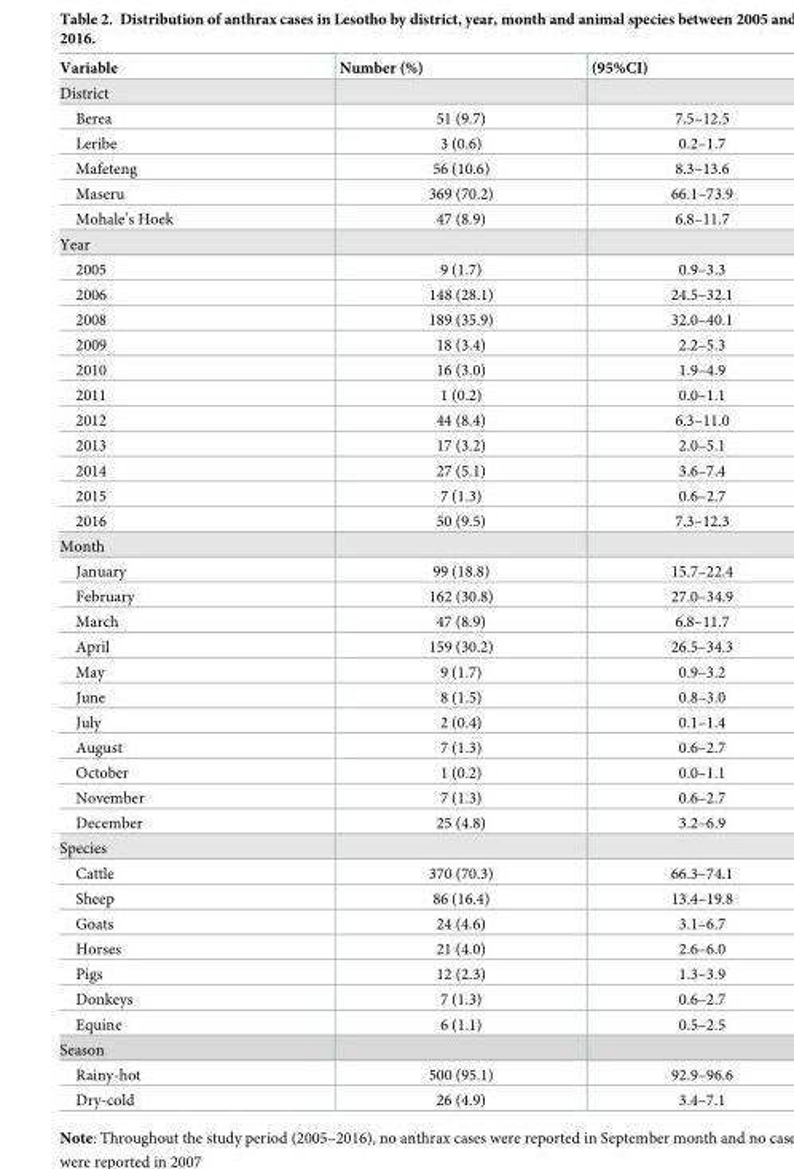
<table><thead><tr><td>Variable</td><td>Number (%)</td><td>(95%CI)</td></tr></thead><tbody><tr><td colspan="3">District</td></tr><tr><td>Berea</td><td>51 (9.7)</td><td>7.5–12.5</td></tr><tr><td>Leribe</td><td>3 (0.6)</td><td>0.2–1.7</td></tr><tr><td>Mafeteng</td><td>56 (10.6)</td><td>8.3–13.6</td></tr><tr><td>Maseru</td><td>369 (70.2)</td><td>66.1–73.9</td></tr><tr><td>Mohale’s Hoek</td><td>47 (8.9)</td><td>6.8–11.7</td></tr><tr><td colspan="3">Year</td></tr><tr><td>2005</td><td>9 (1.7)</td><td>0.9–3.3</td></tr><tr><td>2006</td><td>148 (28.1)</td><td>24.5–32.1</td></tr><tr><td>2008</td><td>189 (35.9)</td><td>32.0–40.1</td></tr><tr><td>2009</td><td>18 (3.4)</td><td>2.2–5.3</td></tr><tr><td>2010</td><td>16 (3.0)</td><td>1.9–4.9</td></tr><tr><td>2011</td><td>1 (0.2)</td><td>0.0–1.1</td></tr><tr><td>2012</td><td>44 (8.4)</td><td>6.3–11.0</td></tr><tr><td>2013</td><td>17 (3.2)</td><td>2.0–5.1</td></tr><tr><td>2014</td><td>27 (5.1)</td><td>3.6–7.4</td></tr><tr><td>2015</td><td>7 (1.3)</td><td>0.6–2.7</td></tr><tr><td>2016</td><td>50 (9.5)</td><td>7.3–12.3</td></tr><tr><td colspan="3">Month</td></tr><tr><td>January</td><td>99 (18.8)</td><td>15.7–22.4</td></tr><tr><td>February</td><td>162 (30.8)</td><td>27.0–34.9</td></tr><tr><td>March</td><td>47 (8.9)</td><td>6.8–11.7</td></tr><tr><td>April</td><td>159 (30.2)</td><td>26.5–34.3</td></tr><tr><td>May</td><td>9 (1.7)</td><td>0.9–3.2</td></tr><tr><td>June</td><td>8 (1.5)</td><td>0.8–3.0</td></tr><tr><td>July</td><td>2 (0.4)</td><td>0.1–1.4</td></tr><tr><td>August</td><td>7 (1.3)</td><td>0.6–2.7</td></tr><tr><td>October</td><td>1 (0.2)</td><td>0.0–1.1</td></tr><tr><td>November</td><td>7 (1.3)</td><td>0.6–2.7</td></tr><tr><td>December</td><td>25 (4.8)</td><td>3.2–6.9</td></tr><tr><td colspan="3">Species</td></tr><tr><td>Cattle</td><td>370 (70.3)</td><td>66.3–74.1</td></tr><tr><td>Sheep</td><td>86 (16.4)</td><td>13.4–19.8</td></tr><tr><td>Goats</td><td>24 (4.6)</td><td>3.1–6.7</td></tr><tr><td>Horses</td><td>21 (4.0)</td><td>2.6–6.0</td></tr><tr><td>Pigs</td><td>12 (2.3)</td><td>1.3–3.9</td></tr><tr><td>Donkeys</td><td>7 (1.3)</td><td>0.6–2.7</td></tr><tr><td>Equine</td><td>6 (1.1)</td><td>0.5–2.5</td></tr><tr><td colspan="3">Season</td></tr><tr><td>Rainy-hot</td><td>500 (95.1)</td><td>92.9–96.6</td></tr><tr><td>Dry-cold</td><td>26 (4.9)</td><td>3.4–7.1</td></tr></tbody></table>